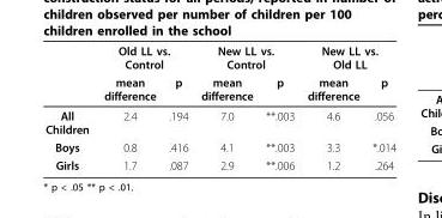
<table><thead><tr><td rowspan="2"></td><td colspan="2">Old LL vs. Control</td><td colspan="2">New LL vs. Control</td><td colspan="2">New LL vs. Old LL</td></tr><tr><td>mean difference</td><td>p</td><td>mean difference</td><td>p</td><td>mean difference</td><td>p</td></tr></thead><tbody><tr><td>All Children</td><td>2.4</td><td>.194</td><td>7.0</td><td>**.003</td><td>4.6</td><td>.056</td></tr><tr><td>Boys</td><td>0.8</td><td>.416</td><td>4.1</td><td>**.003</td><td>3.3</td><td>*.014</td></tr><tr><td>Girls</td><td>1.7</td><td>.087</td><td>2.9</td><td>**.006</td><td>1.2</td><td>.264</td></tr></tbody></table>